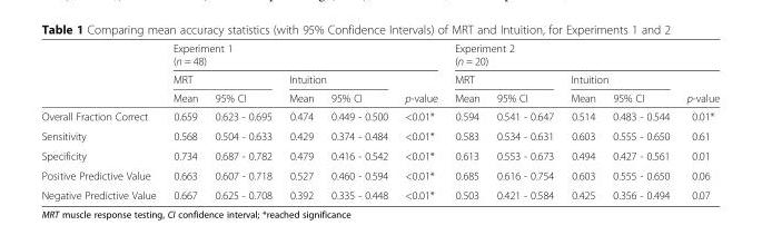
<table><thead><tr><td rowspan="4"></td><td rowspan="2" colspan="5">Experiment 1 (n = 48)</td><td rowspan="2" colspan="5">Experiment 2 (n = 20)</td></tr><tr></tr><tr><td colspan="2">MRT</td><td colspan="2">Intuition</td><td rowspan="2">p-value</td><td colspan="2">MRT</td><td colspan="2">Intuition</td><td rowspan="2">p-value</td></tr><tr><td>Mean</td><td>95% CI</td><td>Mean</td><td>95% CI</td><td>Mean</td><td>95% CI</td><td>Mean</td><td>95% CI</td></tr></thead><tbody><tr><td>Overall Fraction Correct</td><td>0.659</td><td>0.623 - 0.695</td><td>0.474</td><td>0.449 - 0.500</td><td>&lt;0.01*</td><td>0.594</td><td>0.541 - 0.647</td><td>0.514</td><td>0.483 - 0.544</td><td>0.01*</td></tr><tr><td>Sensitivity</td><td>0.568</td><td>0.504 - 0.633</td><td>0.429</td><td>0.374 - 0.484</td><td>&lt;0.01*</td><td>0.583</td><td>0.534 - 0.631</td><td>0.603</td><td>0.555 - 0.650</td><td>0.61</td></tr><tr><td>Specificity</td><td>0.734</td><td>0.687 - 0.782</td><td>0.479</td><td>0.416 - 0.542</td><td>&lt;0.01*</td><td>0.613</td><td>0.553 - 0.673</td><td>0.494</td><td>0.427 - 0.561</td><td>0.01</td></tr><tr><td>Positive Predictive Value</td><td>0.663</td><td>0.607 - 0.718</td><td>0.527</td><td>0.460 - 0.594</td><td>&lt;0.01*</td><td>0.685</td><td>0.616 - 0.754</td><td>0.603</td><td>0.555 - 0.650</td><td>0.06</td></tr><tr><td>Negative Predictive Value</td><td>0.667</td><td>0.625 - 0.708</td><td>0.392</td><td>0.335 - 0.448</td><td>&lt;0.01*</td><td>0.503</td><td>0.421 - 0.584</td><td>0.425</td><td>0.356 - 0.494</td><td>0.07</td></tr></tbody></table>